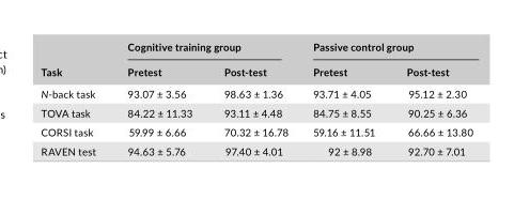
<table><thead><tr><td rowspan="2">Task</td><td colspan="2">Cognitive training group</td><td colspan="2">Passive control group</td></tr><tr><td>Pretest</td><td>Post‐test</td><td>Pretest</td><td>Post‐test</td></tr></thead><tbody><tr><td>N‐back task</td><td>93.07 ± 3.56</td><td>98.63 ± 1.36</td><td>93.71 ± 4.05</td><td>95.12 ± 2.30</td></tr><tr><td>TOVA task</td><td>84.22 ± 11.33</td><td>93.11 ± 4.48</td><td>84.75 ± 8.55</td><td>90.25 ± 6.36</td></tr><tr><td>CORSI task</td><td>59.99 ± 6.66</td><td>70.32 ± 16.78</td><td>59.16 ± 11.51</td><td>66.66 ± 13.80</td></tr><tr><td>RAVEN test</td><td>94.63 ± 5.76</td><td>97.40 ± 4.01</td><td>92 ± 8.98</td><td>92.70 ± 7.01</td></tr></tbody></table>